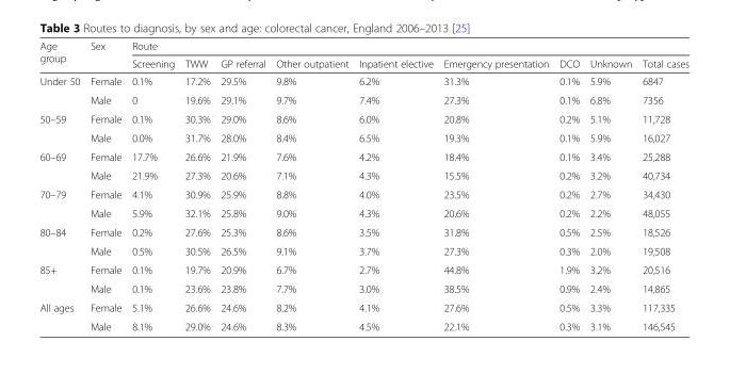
<table><thead><tr><td rowspan="2">Age group</td><td rowspan="2">Sex</td><td colspan="9">Route</td></tr><tr><td>Screening</td><td>TWW</td><td>GP referral</td><td>Other outpatient</td><td>Inpatient elective</td><td>Emergency presentation</td><td>DCO</td><td>Unknown</td><td>Total cases</td></tr></thead><tbody><tr><td rowspan="2">Under 50</td><td>Female</td><td>0.1%</td><td>17.2%</td><td>29.5%</td><td>9.8%</td><td>6.2%</td><td>31.3%</td><td>0.1%</td><td>5.9%</td><td>6847</td></tr><tr><td>Male</td><td>0</td><td>19.6%</td><td>29.1%</td><td>9.7%</td><td>7.4%</td><td>27.3%</td><td>0.1%</td><td>6.8%</td><td>7356</td></tr><tr><td rowspan="2">50–59</td><td>Female</td><td>0.1%</td><td>30.3%</td><td>29.0%</td><td>8.6%</td><td>6.0%</td><td>20.8%</td><td>0.2%</td><td>5.1%</td><td>11,728</td></tr><tr><td>Male</td><td>0.0%</td><td>31.7%</td><td>28.0%</td><td>8.4%</td><td>6.5%</td><td>19.3%</td><td>0.1%</td><td>5.9%</td><td>16,027</td></tr><tr><td rowspan="2">60–69</td><td>Female</td><td>17.7%</td><td>26.6%</td><td>21.9%</td><td>7.6%</td><td>4.2%</td><td>18.4%</td><td>0.1%</td><td>3.4%</td><td>25,288</td></tr><tr><td>Male</td><td>21.9%</td><td>27.3%</td><td>20.6%</td><td>7.1%</td><td>4.3%</td><td>15.5%</td><td>0.2%</td><td>3.2%</td><td>40,734</td></tr><tr><td rowspan="2">70–79</td><td>Female</td><td>4.1%</td><td>30.9%</td><td>25.9%</td><td>8.8%</td><td>4.0%</td><td>23.5%</td><td>0.2%</td><td>2.7%</td><td>34,430</td></tr><tr><td>Male</td><td>5.9%</td><td>32.1%</td><td>25.8%</td><td>9.0%</td><td>4.3%</td><td>20.6%</td><td>0.2%</td><td>2.2%</td><td>48,055</td></tr><tr><td rowspan="2">80–84</td><td>Female</td><td>0.2%</td><td>27.6%</td><td>25.3%</td><td>8.6%</td><td>3.5%</td><td>31.8%</td><td>0.5%</td><td>2.5%</td><td>18,526</td></tr><tr><td>Male</td><td>0.5%</td><td>30.5%</td><td>26.5%</td><td>9.1%</td><td>3.7%</td><td>27.3%</td><td>0.3%</td><td>2.0%</td><td>19,508</td></tr><tr><td rowspan="2">85+</td><td>Female</td><td>0.1%</td><td>19.7%</td><td>20.9%</td><td>6.7%</td><td>2.7%</td><td>44.8%</td><td>1.9%</td><td>3.2%</td><td>20,516</td></tr><tr><td>Male</td><td>0.1%</td><td>23.6%</td><td>23.8%</td><td>7.7%</td><td>3.0%</td><td>38.5%</td><td>0.9%</td><td>2.4%</td><td>14,865</td></tr><tr><td rowspan="2">All ages</td><td>Female</td><td>5.1%</td><td>26.6%</td><td>24.6%</td><td>8.2%</td><td>4.1%</td><td>27.6%</td><td>0.5%</td><td>3.3%</td><td>117,335</td></tr><tr><td>Male</td><td>8.1%</td><td>29.0%</td><td>24.6%</td><td>8.3%</td><td>4.5%</td><td>22.1%</td><td>0.3%</td><td>3.1%</td><td>146,545</td></tr></tbody></table>